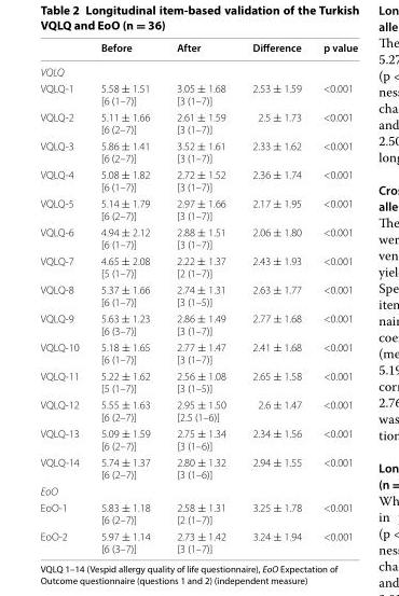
<table><thead><tr><td></td><td>Before</td><td>After</td><td>Difference</td><td>p value</td></tr></thead><tbody><tr><td colspan="5">VQLQ</td></tr><tr><td>VQLQ-1</td><td>5.58 ± 1.51 [6 (1–7)]</td><td>3.05 ± 1.68 [3 (1–7)]</td><td>2.53 ± 1.59</td><td>&lt;0.001</td></tr><tr><td>VQLQ-2</td><td>5.11 ± 1.66 [6 (2–7)]</td><td>2.61 ± 1.59 [3 (1–7)]</td><td>2.5 ± 1.73</td><td>&lt;0.001</td></tr><tr><td>VQLQ-3</td><td>5.86 ± 1.41 [6 (2–7)]</td><td>3.52 ± 1.61 [3 (1–7)]</td><td>2.33 ± 1.62</td><td>&lt;0.001</td></tr><tr><td>VQLQ-4</td><td>5.08 ± 1.82 [6 (1–7)]</td><td>2.72 ± 1.52 [3 (1–7)]</td><td>2.36 ± 1.74</td><td>&lt;0.001</td></tr><tr><td>VQLQ-5</td><td>5.14 ± 1.79 [6 (2–7)]</td><td>2.97 ± 1.66 [3 (1–7)]</td><td>2.17 ± 1.95</td><td>&lt;0.001</td></tr><tr><td>VQLQ-6</td><td>4.94 ± 2.12 [6 (1–7)]</td><td>2.88 ± 1.51 [3 (1–7)]</td><td>2.06 ± 1.80</td><td>&lt;0.001</td></tr><tr><td>VQLQ-7</td><td>4.65 ± 2.08 [5 (1–7)]</td><td>2.22 ± 1.37 [2 (1–7)]</td><td>2.43 ± 1.93</td><td>&lt;0.001</td></tr><tr><td>VQLQ-8</td><td>5.37 ± 1.66 [6 (1–7)]</td><td>2.74 ± 1.31 [3 (1–5)]</td><td>2.63 ± 1.77</td><td>&lt;0.001</td></tr><tr><td>VQLQ-9</td><td>5.63 ± 1.23 [6 (3–7)]</td><td>2.86 ± 1.49 [3 (1–7)]</td><td>2.77 ± 1.68</td><td>&lt;0.001</td></tr><tr><td>VQLQ-10</td><td>5.18 ± 1.65 [6 (1–7)]</td><td>2.77 ± 1.47 [3 (1–7)]</td><td>2.41 ± 1.68</td><td>&lt;0.001</td></tr><tr><td>VQLQ-11</td><td>5.22 ± 1.62 [5 (1–7)]</td><td>2.56 ± 1.08 [3 (1–5)]</td><td>2.65 ± 1.58</td><td>&lt;0.001</td></tr><tr><td>VQLQ-12</td><td>5.55 ± 1.63 [6 (2–7)]</td><td>2.95 ± 1.50 [2.5 (1–6)]</td><td>2.6 ± 1.47</td><td>&lt;0.001</td></tr><tr><td>VQLQ-13</td><td>5.09 ± 1.59 [6 (2–7)]</td><td>2.75 ± 1.34 [3 (1–6)]</td><td>2.34 ± 1.56</td><td>&lt;0.001</td></tr><tr><td>VQLQ-14</td><td>5.74 ± 1.37 [6 (2–7)]</td><td>2.80 ± 1.32 [3 (1–6)]</td><td>2.94 ± 1.55</td><td>&lt;0.001</td></tr><tr><td colspan="5">EoO</td></tr><tr><td>EoO-1</td><td>5.83 ± 1.18 [6 (2–7)]</td><td>2.58 ± 1.31 [2 (1–7)]</td><td>3.25 ± 1.78</td><td>&lt;0.001</td></tr><tr><td>EoO-2</td><td>5.97 ± 1.14 [6 (3–7)]</td><td>2.73 ± 1.42 [3 (1–7)]</td><td>3.24 ± 1.94</td><td>&lt;0.001</td></tr></tbody></table>